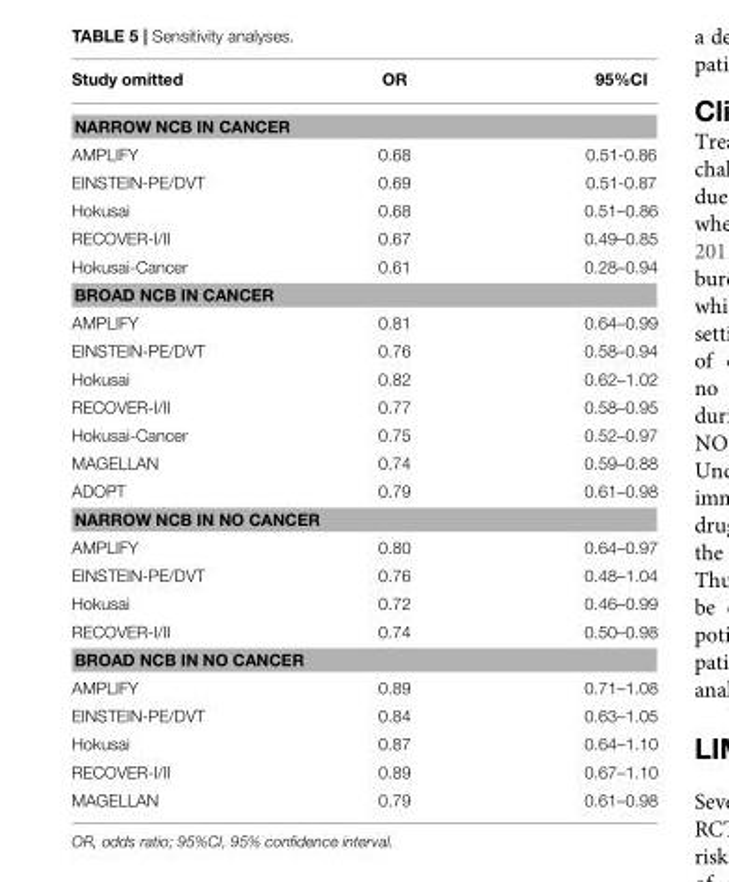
<table><thead><tr><td>Study omitted</td><td>OR</td><td>95%CI</td></tr></thead><tbody><tr><td colspan="3">NARROW NCB IN CANCER</td></tr><tr><td>AMPLIFY</td><td>0.68</td><td>0.51-0.86</td></tr><tr><td>EINSTEIN-PE/DVT</td><td>0.69</td><td>0.51-0.87</td></tr><tr><td>Hokusai</td><td>0.68</td><td>0.51–0.86</td></tr><tr><td>RECOVER-I/II</td><td>0.67</td><td>0.49–0.85</td></tr><tr><td>Hokusai-Cancer</td><td>0.61</td><td>0.28–0.94</td></tr><tr><td colspan="3">BROAD NCB IN CANCER</td></tr><tr><td>AMPLIFY</td><td>0.81</td><td>0.64–0.99</td></tr><tr><td>EINSTEIN-PE/DVT</td><td>0.76</td><td>0.58–0.94</td></tr><tr><td>Hokusai</td><td>0.82</td><td>0.62–1.02</td></tr><tr><td>RECOVER-I/II</td><td>0.77</td><td>0.58–0.95</td></tr><tr><td>Hokusai-Cancer</td><td>0.75</td><td>0.52–0.97</td></tr><tr><td>MAGELLAN</td><td>0.74</td><td>0.59–0.88</td></tr><tr><td>ADOPT</td><td>0.79</td><td>0.61–0.98</td></tr><tr><td colspan="3">NARROW NCB IN NO CANCER</td></tr><tr><td>AMPLIFY</td><td>0.80</td><td>0.64–0.97</td></tr><tr><td>EINSTEIN-PE/DVT</td><td>0.76</td><td>0.48–1.04</td></tr><tr><td>Hokusai</td><td>0.72</td><td>0.46–0.99</td></tr><tr><td>RECOVER-I/II</td><td>0.74</td><td>0.50–0.98</td></tr><tr><td colspan="3">BROAD NCB IN NO CANCER</td></tr><tr><td>AMPLIFY</td><td>0.89</td><td>0.71–1.08</td></tr><tr><td>EINSTEIN-PE/DVT</td><td>0.84</td><td>0.63–1.05</td></tr><tr><td>Hokusai</td><td>0.87</td><td>0.64–1.10</td></tr><tr><td>RECOVER-I/II</td><td>0.89</td><td>0.67–1.10</td></tr><tr><td>MAGELLAN</td><td>0.79</td><td>0.61–0.98</td></tr></tbody></table>